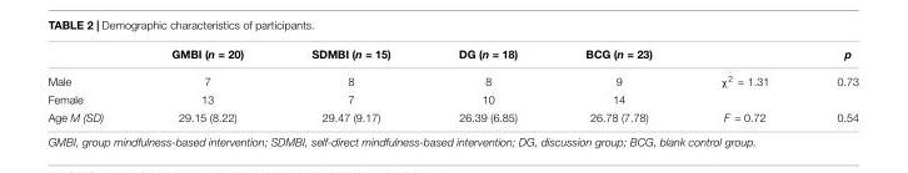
<table><thead><tr><td></td><td>GMBI (n = 20)</td><td>SDMBI (n = 15)</td><td>DG (n = 18)</td><td>BCG (n = 23)</td><td></td><td>p</td></tr></thead><tbody><tr><td>Male</td><td>7</td><td>8</td><td>8</td><td>9</td><td>χ<sup>2</sup> = 1.31</td><td>0.73</td></tr><tr><td>Female</td><td>13</td><td>7</td><td>10</td><td>14</td><td></td><td></td></tr><tr><td>Age M (SD)</td><td>29.15 (8.22)</td><td>29.47 (9.17)</td><td>26.39 (6.85)</td><td>26.78 (7.78)</td><td>F = 0.72</td><td>0.54</td></tr></tbody></table>